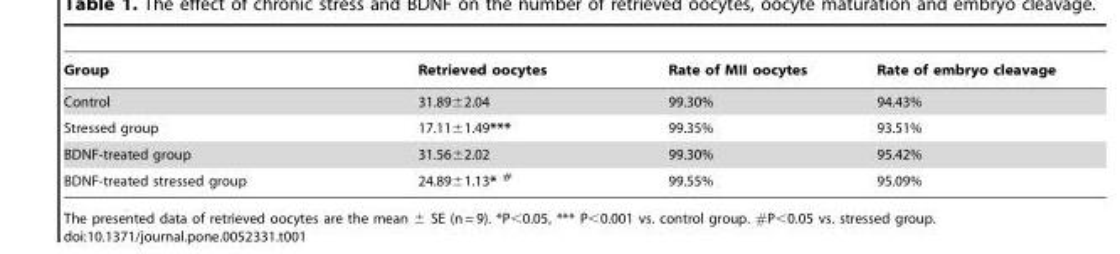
<table><thead><tr><td>Group</td><td>Retrieved oocytes</td><td>Rate of MII oocytes</td><td>Rate of embryo cleavage</td></tr></thead><tbody><tr><td>Control</td><td>31.89±2.04</td><td>99.30%</td><td>94.43%</td></tr><tr><td>Stressed group</td><td>17.11±1.49***</td><td>99.35%</td><td>93.51%</td></tr><tr><td>BDNF-treated group</td><td>31.56±2.02</td><td>99.30%</td><td>95.42%</td></tr><tr><td>BDNF-treated stressed group</td><td>24.89±1.13* <sup>#</sup></td><td>99.55%</td><td>95.09%</td></tr></tbody></table>